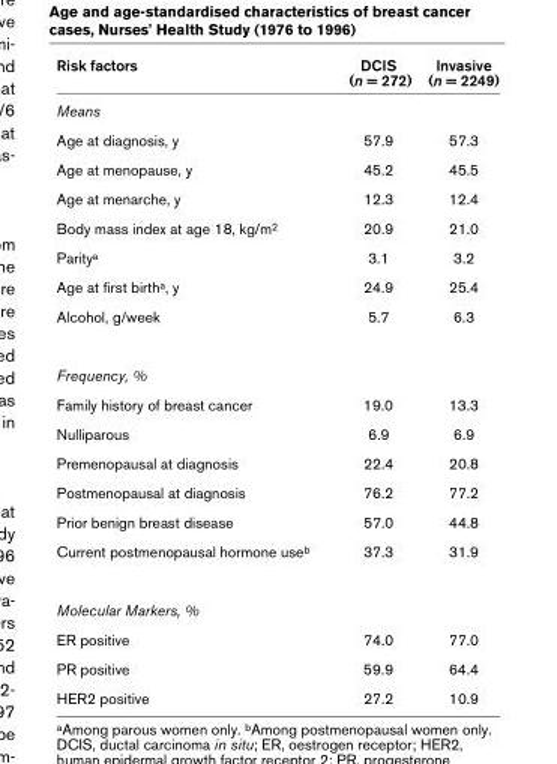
<table><thead><tr><td>Risk factors</td><td>DCIS (n = 272)</td><td>Invasive (n = 2249)</td></tr></thead><tbody><tr><td colspan="3">Means</td></tr><tr><td>Age at diagnosis, y</td><td>57.9</td><td>57.3</td></tr><tr><td>Age at menopause, y</td><td>45.2</td><td>45.5</td></tr><tr><td>Age at menarche, y</td><td>12.3</td><td>12.4</td></tr><tr><td>Body mass index at age 18, kg/m<sup>2</sup></td><td>20.9</td><td>21.0</td></tr><tr><td>Parity<sup>a</sup></td><td>3.1</td><td>3.2</td></tr><tr><td>Age at first birth<sup>a</sup>, y</td><td>24.9</td><td>25.4</td></tr><tr><td>Alcohol, g/week</td><td>5.7</td><td>6.3</td></tr><tr><td colspan="3">Frequency, %</td></tr><tr><td>Family history of breast cancer</td><td>19.0</td><td>13.3</td></tr><tr><td>Nulliparous</td><td>6.9</td><td>6.9</td></tr><tr><td>Premenopausal at diagnosis</td><td>22.4</td><td>20.8</td></tr><tr><td>Postmenopausal at diagnosis</td><td>76.2</td><td>77.2</td></tr><tr><td>Prior benign breast disease</td><td>57.0</td><td>44.8</td></tr><tr><td>Current postmenopausal hormone use<sup>b</sup></td><td>37.3</td><td>31.9</td></tr><tr><td colspan="3">Molecular Markers, %</td></tr><tr><td>ER positive</td><td>74.0</td><td>77.0</td></tr><tr><td>PR positive</td><td>59.9</td><td>64.4</td></tr><tr><td>HER2 positive</td><td>27.2</td><td>10.9</td></tr></tbody></table>